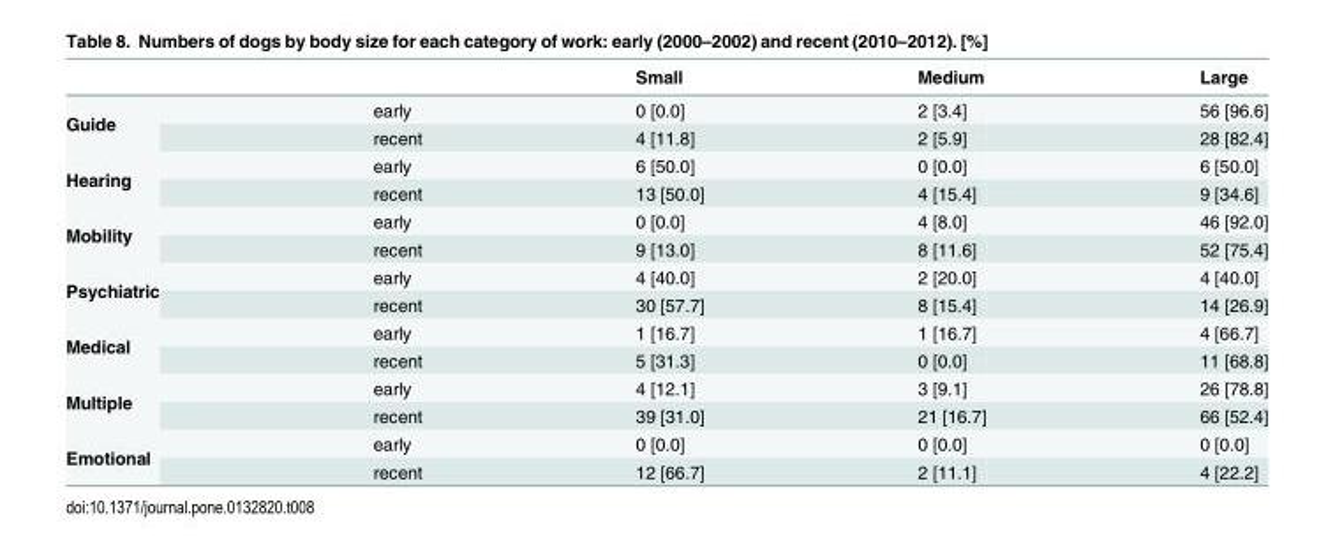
<table><thead><tr><td></td><td></td><td>Small</td><td>Medium</td><td>Large</td></tr></thead><tbody><tr><td rowspan="2">Guide</td><td>early</td><td>0 [0.0]</td><td>2 [3.4]</td><td>56 [96.6]</td></tr><tr><td>recent</td><td>4 [11.8]</td><td>2 [5.9]</td><td>28 [82.4]</td></tr><tr><td rowspan="2">Hearing</td><td>early</td><td>6 [50.0]</td><td>0 [0.0]</td><td>6 [50.0]</td></tr><tr><td>recent</td><td>13 [50.0]</td><td>4 [15.4]</td><td>9 [34.6]</td></tr><tr><td rowspan="2">Mobility</td><td>early</td><td>0 [0.0]</td><td>4 [8.0]</td><td>46 [92.0]</td></tr><tr><td>recent</td><td>9 [13.0]</td><td>8 [11.6]</td><td>52 [75.4]</td></tr><tr><td rowspan="2">Psychiatric</td><td>early</td><td>4 [40.0]</td><td>2 [20.0]</td><td>4 [40.0]</td></tr><tr><td>recent</td><td>30 [57.7]</td><td>8 [15.4]</td><td>14 [26.9]</td></tr><tr><td rowspan="2">Medical</td><td>early</td><td>1 [16.7]</td><td>1 [16.7]</td><td>4 [66.7]</td></tr><tr><td>recent</td><td>5 [31.3]</td><td>0 [0.0]</td><td>11 [68.8]</td></tr><tr><td rowspan="2">Multiple</td><td>early</td><td>4 [12.1]</td><td>3 [9.1]</td><td>26 [78.8]</td></tr><tr><td>recent</td><td>39 [31.0]</td><td>21 [16.7]</td><td>66 [52.4]</td></tr><tr><td rowspan="2">Emotional</td><td>early</td><td>0 [0.0]</td><td>0 [0.0]</td><td>0 [0.0]</td></tr><tr><td>recent</td><td>12 [66.7]</td><td>2 [11.1]</td><td>4 [22.2]</td></tr></tbody></table>